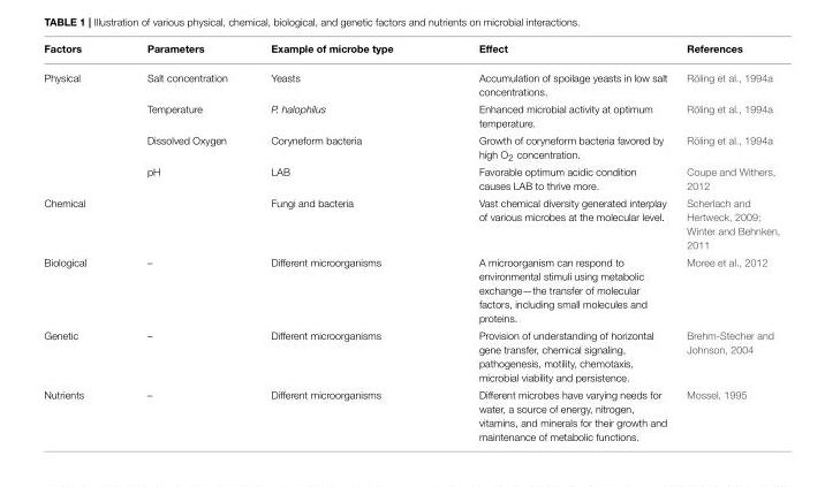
<table><thead><tr><td>Factors</td><td>Parameters</td><td>Example of microbe type</td><td>Effect</td><td>References</td></tr></thead><tbody><tr><td rowspan="4">Physical</td><td>Salt concentration</td><td>Yeasts</td><td>Accumulation of spoilage yeasts in low salt concentrations.</td><td>Röling et al., 1994a</td></tr><tr><td>Temperature</td><td>P. halophilus</td><td>Enhanced microbial activity at optimum temperature.</td><td>Röling et al., 1994a</td></tr><tr><td>Dissolved Oxygen</td><td>Coryneform bacteria</td><td>Growth of coryneform bacteria favored by high O<sub>2</sub> concentration.</td><td>Röling et al., 1994a</td></tr><tr><td>pH</td><td>LAB</td><td>Favorable optimum acidic condition causes LAB to thrive more.</td><td>Coupe and Withers, 2012</td></tr><tr><td>Chemical</td><td></td><td>Fungi and bacteria</td><td>Vast chemical diversity generated interplay of various microbes at the molecular level.</td><td>Scherlach and Hertweck, 2009; Winter and Behnken, 2011</td></tr><tr><td>Biological</td><td>–</td><td>Different microorganisms</td><td>A microorganism can respond to environmental stimuli using metabolic exchange—the transfer of molecular factors, including small molecules and proteins.</td><td>Moree et al., 2012</td></tr><tr><td>Genetic</td><td>–</td><td>Different microorganisms</td><td>Provision of understanding of horizontal gene transfer, chemical signaling, pathogenesis, motility, chemotaxis, microbial viability and persistence.</td><td>Brehm-Stecher and Johnson, 2004</td></tr><tr><td>Nutrients</td><td>–</td><td>Different microorganisms</td><td>Different microbes have varying needs for water, a source of energy, nitrogen, vitamins, and minerals for their growth and maintenance of metabolic functions.</td><td>Mossel, 1995</td></tr></tbody></table>